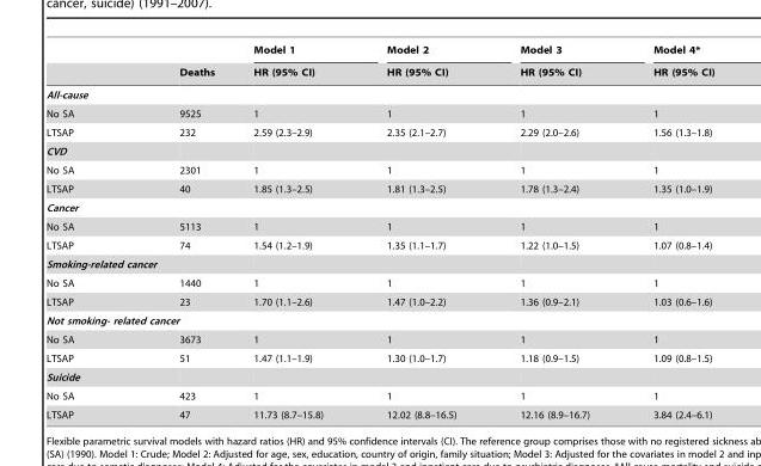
<table><thead><tr><td rowspan="2"></td><td rowspan="2">Deaths</td><td rowspan="2">Model 1 HR (95% CI)</td><td rowspan="2">Model 2 HR (95% CI)</td><td rowspan="2">Model 3 HR (95% CI)</td><td rowspan="2">Model 4* HR (95% CI)</td></tr><tr></tr></thead><tbody><tr><td colspan="6">All-cause</td></tr><tr><td>No SA</td><td>9525</td><td>1</td><td>1</td><td>1</td><td>1</td></tr><tr><td>LTSAP</td><td>232</td><td>2.59 (2.3–2.9)</td><td>2.35 (2.1–2.7)</td><td>2.29 (2.0–2.6)</td><td>1.56 (1.3–1.8)</td></tr><tr><td colspan="6">CVD</td></tr><tr><td>No SA</td><td>2301</td><td>1</td><td>1</td><td>1</td><td>1</td></tr><tr><td>LTSAP</td><td>40</td><td>1.85 (1.3–2.5)</td><td>1.81 (1.3–2.5)</td><td>1.78 (1.3–2.4)</td><td>1.35 (1.0–1.9)</td></tr><tr><td colspan="6">Cancer</td></tr><tr><td>No SA</td><td>5113</td><td>1</td><td>1</td><td>1</td><td>1</td></tr><tr><td>LTSAP</td><td>74</td><td>1.54 (1.2–1.9)</td><td>1.35 (1.1–1.7)</td><td>1.22 (1.0–1.5)</td><td>1.07 (0.8–1.4)</td></tr><tr><td colspan="6">Smoking-related cancer</td></tr><tr><td>No SA</td><td>1440</td><td>1</td><td>1</td><td>1</td><td>1</td></tr><tr><td>LTSAP</td><td>23</td><td>1.70 (1.1–2.6)</td><td>1.47 (1.0–2.2)</td><td>1.36 (0.9–2.1)</td><td>1.03 (0.6–1.6)</td></tr><tr><td colspan="6">Not smoking- related cancer</td></tr><tr><td>No SA</td><td>3673</td><td>1</td><td>1</td><td>1</td><td>1</td></tr><tr><td>LTSAP</td><td>51</td><td>1.47 (1.1–1.9)</td><td>1.30 (1.0–1.7)</td><td>1.18 (0.9–1.5)</td><td>1.09 (0.8–1.5)</td></tr><tr><td colspan="6">Suicide</td></tr><tr><td>No SA</td><td>423</td><td>1</td><td>1</td><td>1</td><td>1</td></tr><tr><td>LTSAP</td><td>47</td><td>11.73 (8.7–15.8)</td><td>12.02 (8.8–16.5)</td><td>12.16 (8.9–16.7)</td><td>3.84 (2.4–6.1)</td></tr></tbody></table>